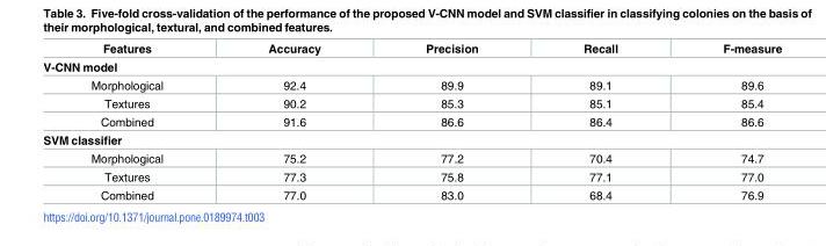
<table><thead><tr><td>Features</td><td>Accuracy</td><td>Precision</td><td>Recall</td><td>F-measure</td></tr></thead><tbody><tr><td colspan="5">V-CNN model</td></tr><tr><td>Morphological</td><td>92.4</td><td>89.9</td><td>89.1</td><td>89.6</td></tr><tr><td>Textures</td><td>90.2</td><td>85.3</td><td>85.1</td><td>85.4</td></tr><tr><td>Combined</td><td>91.6</td><td>86.6</td><td>86.4</td><td>86.6</td></tr><tr><td colspan="5">SVM classifier</td></tr><tr><td>Morphological</td><td>75.2</td><td>77.2</td><td>70.4</td><td>74.7</td></tr><tr><td>Textures</td><td>77.3</td><td>75.8</td><td>77.1</td><td>77.0</td></tr><tr><td>Combined</td><td>77.0</td><td>83.0</td><td>68.4</td><td>76.9</td></tr></tbody></table>